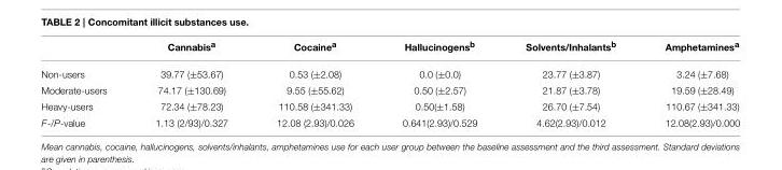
<table><thead><tr><td></td><td>Cannabis<sup>a</sup></td><td>Cocaine<sup>a</sup></td><td>Hallucinogens<sup>b</sup></td><td>Solvents/Inhalants<sup>b</sup></td><td>Amphetamines<sup>a</sup></td></tr></thead><tbody><tr><td>Non-users</td><td>39.77 (±53.67)</td><td>0.53 (±2.08)</td><td>0.0 (±0.0)</td><td>23.77 (±3.87)</td><td>3.24 (±7.68)</td></tr><tr><td>Moderate-users</td><td>74.17 (±130.69)</td><td>9.55 (±55.62)</td><td>0.50 (±2.57)</td><td>21.87 (±3.78)</td><td>19.59 (±28.49)</td></tr><tr><td>Heavy-users</td><td>72.34 (±78.23)</td><td>110.58 (±341.33)</td><td>0.50(±1.58)</td><td>26.70 (±7.54)</td><td>110.67 (±341.33)</td></tr><tr><td>F-/P-value</td><td>1.13 (2/93)/0.327</td><td>12.08 (2.93)/0.026</td><td>0.641(2.93)/0.529</td><td>4.62(2.93)/0.012</td><td>12.08(2.93)/0.000</td></tr></tbody></table>